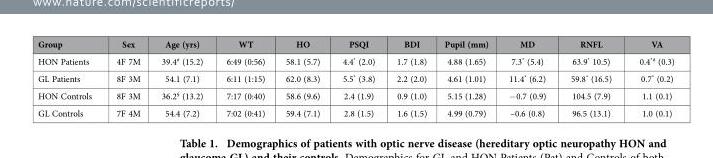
<table><thead><tr><td>Group</td><td>Sex</td><td>Age (yrs)</td><td>WT</td><td>HO</td><td>PSQI</td><td>BDI</td><td>Pupil (mm)</td><td>MD</td><td>RNFL</td><td>VA</td></tr></thead><tbody><tr><td>HON Patients</td><td>4F 7M</td><td>39.4# (15.2)</td><td>6:49 (0:56)</td><td>58.1 (5.7)</td><td>4.4* (2.0)</td><td>1.7 (1.8)</td><td>4.88 (1.65)</td><td>7.3* (5.4)</td><td>63.9* 10.5)</td><td>0.4*# (0.3)</td></tr><tr><td>GL Patients</td><td>8F 3M</td><td>54.1 (7.1)</td><td>6:11 (1:15)</td><td>62.0 (8.3)</td><td>5.5* (3.8)</td><td>2.2 (2.0)</td><td>4.61 (1.01)</td><td>11.4* (6.2)</td><td>59.8* (16.5)</td><td>0.7* (0.2)</td></tr><tr><td>HON Controls</td><td>8F 3M</td><td>36.2§ (13.2)</td><td>7:17 (0:40)</td><td>58.6 (9.6)</td><td>2.4 (1.9)</td><td>0.9 (1.0)</td><td>5.15 (1.28)</td><td>− 0.7 (0.9)</td><td>104.5 (7.9)</td><td>1.1 (0.1)</td></tr><tr><td>GL Controls</td><td>7F 4M</td><td>54.4 (7.2)</td><td>7:02 (0:41)</td><td>59.4 (7.1)</td><td>2.8 (1.5)</td><td>1.6 (1.5)</td><td>4.99 (0.79)</td><td>–0.6 (0.8)</td><td>96.5 (13.1)</td><td>1.0 (0.1)</td></tr></tbody></table>